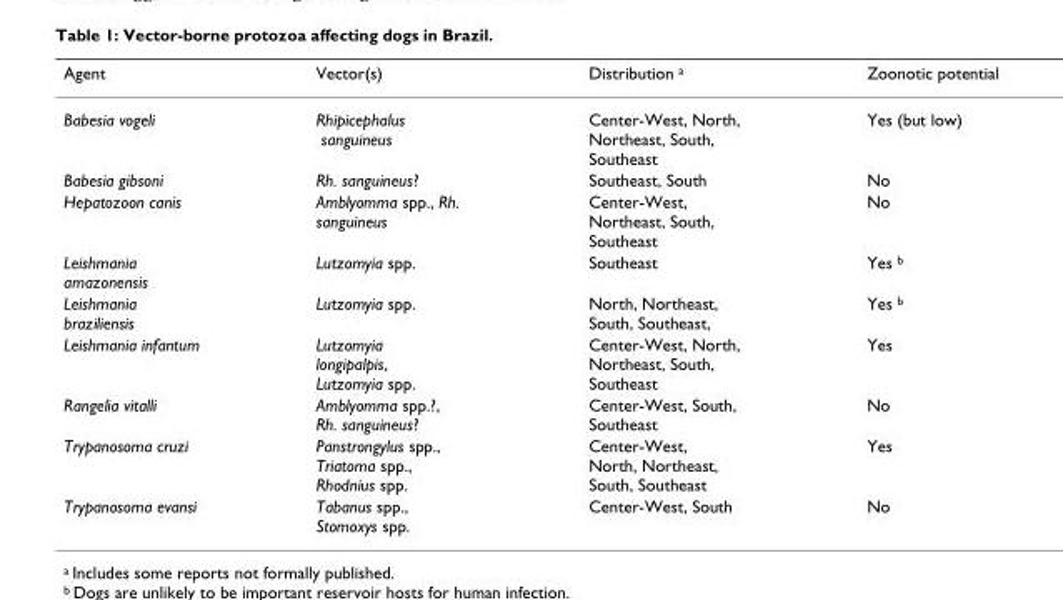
<table><thead><tr><td>Agent</td><td>Vector(s)</td><td>Distribution <sup>a</sup></td><td>Zoonotic potential</td></tr></thead><tbody><tr><td>Babesia vogeli</td><td>Rhipicephalus sanguineus</td><td>Center-West, North, Northeast, South, Southeast</td><td>Yes (but low)</td></tr><tr><td>Babesia gibsoni</td><td>Rh. sanguineus?</td><td>Southeast, South</td><td>No</td></tr><tr><td>Hepatozoon canis</td><td>Amblyomma spp., Rh. sanguineus</td><td>Center-West, Northeast, South, Southeast</td><td>No</td></tr><tr><td>Leishmania amazonensis</td><td>Lutzomyia spp.</td><td>Southeast</td><td>Yes <sup>b</sup></td></tr><tr><td>Leishmania braziliensis</td><td>Lutzomyia spp.</td><td>North, Northeast, South, Southeast,</td><td>Yes <sup>b</sup></td></tr><tr><td>Leishmania infantum</td><td>Lutzomyia longipalpis, Lutzomyia spp.</td><td>Center-West, North, Northeast, South, Southeast</td><td>Yes</td></tr><tr><td>Rangelia vitalli</td><td>Amblyomma spp.?, Rh. sanguineus?</td><td>Center-West, South, Southeast</td><td>No</td></tr><tr><td>Trypanosoma cruzi</td><td>Panstrongylus spp., Triatoma spp., Rhodnius spp.</td><td>Center-West, North, Northeast, South, Southeast</td><td>Yes</td></tr><tr><td>Trypanosoma evansi</td><td>Tabanus spp., Stomoxys spp.</td><td>Center-West, South</td><td>No</td></tr></tbody></table>